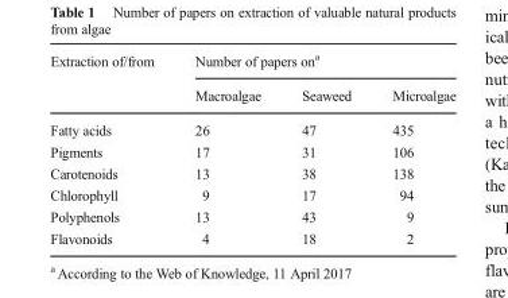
<table><thead><tr><td rowspan="2">Extraction of/from</td><td colspan="3">Number of papers on<sup>a</sup></td></tr><tr><td>Macroalgae</td><td>Seaweed</td><td>Microalgae</td></tr></thead><tbody><tr><td>Fatty acids</td><td>26</td><td>47</td><td>435</td></tr><tr><td>Pigments</td><td>17</td><td>31</td><td>106</td></tr><tr><td>Carotenoids</td><td>13</td><td>38</td><td>138</td></tr><tr><td>Chlorophyll</td><td>9</td><td>17</td><td>94</td></tr><tr><td>Polyphenols</td><td>13</td><td>43</td><td>9</td></tr><tr><td>Flavonoids</td><td>4</td><td>18</td><td>2</td></tr></tbody></table>